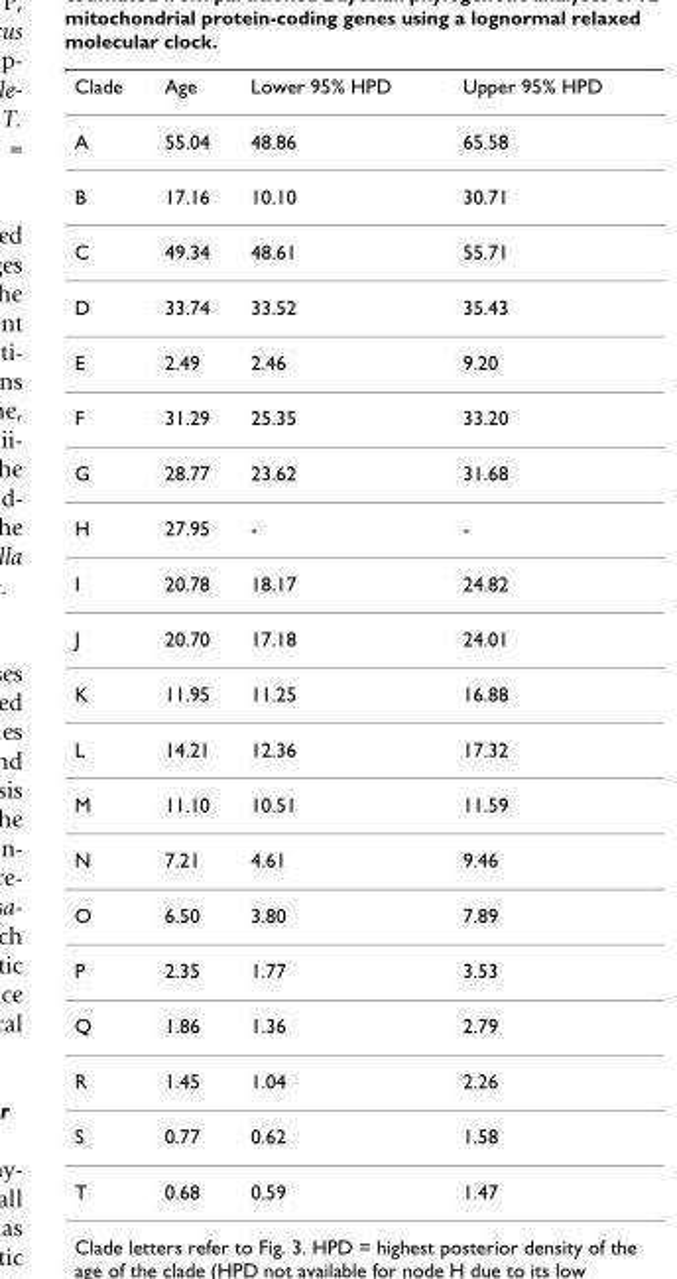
<table><thead><tr><td>Clade</td><td>Age</td><td>Lower 95% HPD</td><td>Upper 95% HPD</td></tr></thead><tbody><tr><td>A</td><td>55.04</td><td>48.86</td><td>65.58</td></tr><tr><td>B</td><td>17.16</td><td>10.10</td><td>30.71</td></tr><tr><td>C</td><td>49.34</td><td>48.61</td><td>55.71</td></tr><tr><td>D</td><td>33.74</td><td>33.52</td><td>35.43</td></tr><tr><td>E</td><td>2.49</td><td>2.46</td><td>9.20</td></tr><tr><td>F</td><td>31.29</td><td>25.35</td><td>33.20</td></tr><tr><td>G</td><td>28.77</td><td>23.62</td><td>31.68</td></tr><tr><td>H</td><td>27.95</td><td>-</td><td>-</td></tr><tr><td>I</td><td>20.78</td><td>18.17</td><td>24.82</td></tr><tr><td>J</td><td>20.70</td><td>17.18</td><td>24.01</td></tr><tr><td>K</td><td>11.95</td><td>11.25</td><td>16.88</td></tr><tr><td>L</td><td>14.21</td><td>12.36</td><td>17.32</td></tr><tr><td>M</td><td>11.10</td><td>10.51</td><td>11.59</td></tr><tr><td>N</td><td>7.21</td><td>4.61</td><td>9.46</td></tr><tr><td>O</td><td>6.50</td><td>3.80</td><td>7.89</td></tr><tr><td>P</td><td>2.35</td><td>1.77</td><td>3.53</td></tr><tr><td>Q</td><td>1.86</td><td>1.36</td><td>2.79</td></tr><tr><td>R</td><td>1.45</td><td>1.04</td><td>2.26</td></tr><tr><td>S</td><td>0.77</td><td>0.62</td><td>1.58</td></tr><tr><td>T</td><td>0.68</td><td>0.59</td><td>1.47</td></tr></tbody></table>